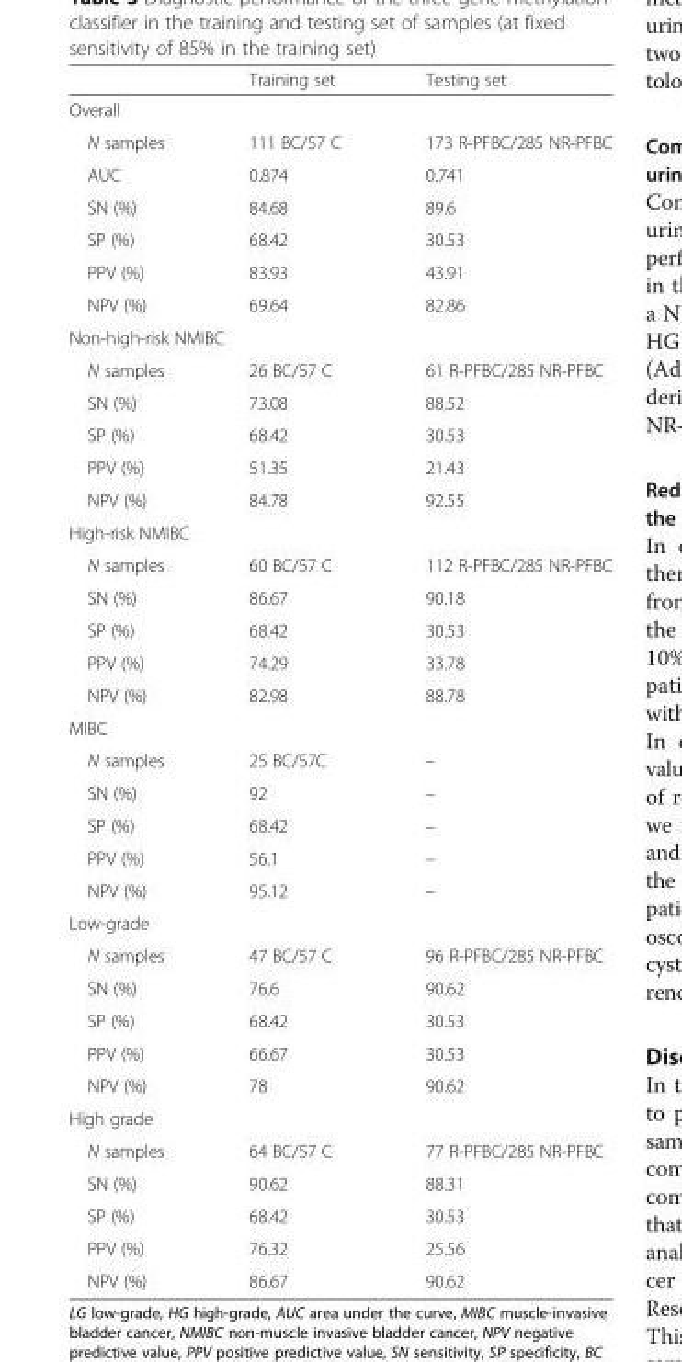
<table><thead><tr><td></td><td>Training set</td><td>Testing set</td></tr></thead><tbody><tr><td colspan="3">Overall</td></tr><tr><td>N samples</td><td>111 BC/57 C</td><td>173 R-PFBC/285 NR-PFBC</td></tr><tr><td>AUC</td><td>0.874</td><td>0.741</td></tr><tr><td>SN (%)</td><td>84.68</td><td>89.6</td></tr><tr><td>SP (%)</td><td>68.42</td><td>30.53</td></tr><tr><td>PPV (%)</td><td>83.93</td><td>43.91</td></tr><tr><td>NPV (%)</td><td>69.64</td><td>82.86</td></tr><tr><td colspan="3">Non-high-risk NMIBC</td></tr><tr><td>N samples</td><td>26 BC/57 C</td><td>61 R-PFBC/285 NR-PFBC</td></tr><tr><td>SN (%)</td><td>73.08</td><td>88.52</td></tr><tr><td>SP (%)</td><td>68.42</td><td>30.53</td></tr><tr><td>PPV (%)</td><td>51.35</td><td>21.43</td></tr><tr><td>NPV (%)</td><td>84.78</td><td>92.55</td></tr><tr><td colspan="3">High-risk NMIBC</td></tr><tr><td>N samples</td><td>60 BC/57 C</td><td>112 R-PFBC/285 NR-PFBC</td></tr><tr><td>SN (%)</td><td>86.67</td><td>90.18</td></tr><tr><td>SP (%)</td><td>68.42</td><td>30.53</td></tr><tr><td>PPV (%)</td><td>74.29</td><td>33.78</td></tr><tr><td>NPV (%)</td><td>82.98</td><td>88.78</td></tr><tr><td colspan="3">MIBC</td></tr><tr><td>N samples</td><td>25 BC/57C</td><td>–</td></tr><tr><td>SN (%)</td><td>92</td><td>–</td></tr><tr><td>SP (%)</td><td>68.42</td><td>–</td></tr><tr><td>PPV (%)</td><td>56.1</td><td>–</td></tr><tr><td>NPV (%)</td><td>95.12</td><td>–</td></tr><tr><td colspan="3">Low-grade</td></tr><tr><td>N samples</td><td>47 BC/57 C</td><td>96 R-PFBC/285 NR-PFBC</td></tr><tr><td>SN (%)</td><td>76.6</td><td>90.62</td></tr><tr><td>SP (%)</td><td>68.42</td><td>30.53</td></tr><tr><td>PPV (%)</td><td>66.67</td><td>30.53</td></tr><tr><td>NPV (%)</td><td>78</td><td>90.62</td></tr><tr><td colspan="3">High grade</td></tr><tr><td>N samples</td><td>64 BC/57 C</td><td>77 R-PFBC/285 NR-PFBC</td></tr><tr><td>SN (%)</td><td>90.62</td><td>88.31</td></tr><tr><td>SP (%)</td><td>68.42</td><td>30.53</td></tr><tr><td>PPV (%)</td><td>76.32</td><td>25.56</td></tr><tr><td>NPV (%)</td><td>86.67</td><td>90.62</td></tr></tbody></table>